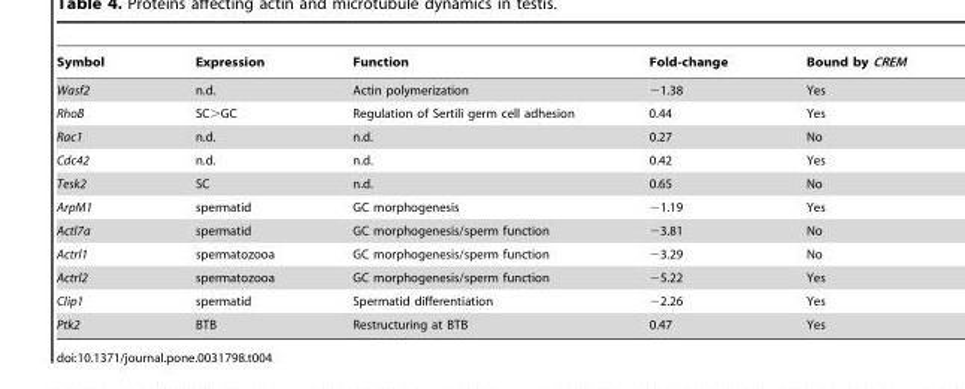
<table><thead><tr><td>Symbol</td><td>Expression</td><td>Function</td><td>Fold-change</td><td>Bound by CREM</td></tr></thead><tbody><tr><td>Wasf2</td><td>n.d.</td><td>Actin polymerization</td><td>−1.38</td><td>Yes</td></tr><tr><td>RhoB</td><td>SC&gt;GC</td><td>Regulation of Sertili germ cell adhesion</td><td>0.44</td><td>Yes</td></tr><tr><td>Rac1</td><td>n.d.</td><td>n.d.</td><td>0.27</td><td>No</td></tr><tr><td>Cdc42</td><td>n.d.</td><td>n.d.</td><td>0.42</td><td>Yes</td></tr><tr><td>Tesk2</td><td>SC</td><td>n.d.</td><td>0.65</td><td>No</td></tr><tr><td>ArpM1</td><td>spermatid</td><td>GC morphogenesis</td><td>−1.19</td><td>Yes</td></tr><tr><td>Actl7a</td><td>spermatid</td><td>GC morphogenesis/sperm function</td><td>−3.81</td><td>No</td></tr><tr><td>Actrl1</td><td>spermatozooa</td><td>GC morphogenesis/sperm function</td><td>−3.29</td><td>No</td></tr><tr><td>Actrl2</td><td>spermatozooa</td><td>GC morphogenesis/sperm function</td><td>−5.22</td><td>Yes</td></tr><tr><td>Clip1</td><td>spermatid</td><td>Spermatid differentiation</td><td>−2.26</td><td>Yes</td></tr><tr><td>Ptk2</td><td>BTB</td><td>Restructuring at BTB</td><td>0.47</td><td>Yes</td></tr></tbody></table>